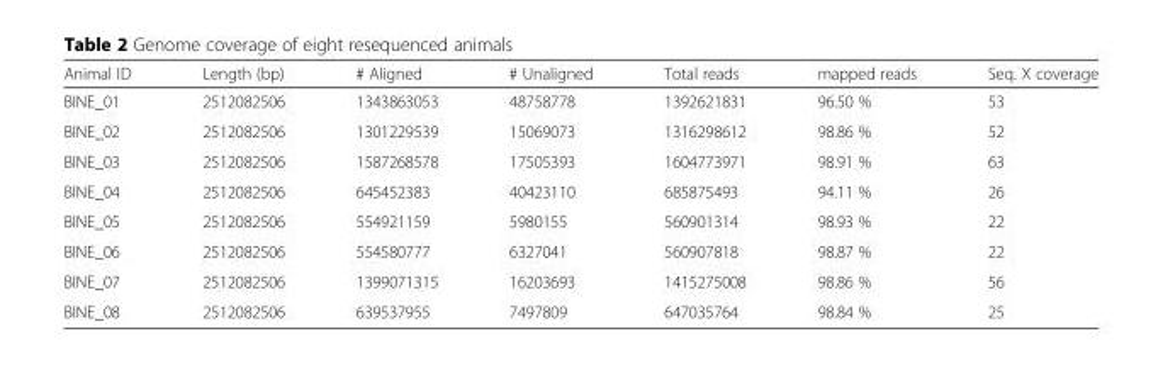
<table><thead><tr><td>Animal ID</td><td>Length (bp)</td><td># Aligned</td><td># Unaligned</td><td>Total reads</td><td>mapped reads</td><td>Seq. X coverage</td></tr></thead><tbody><tr><td>BINE_01</td><td>2512082506</td><td>1343863053</td><td>48758778</td><td>1392621831</td><td>96.50 %</td><td>53</td></tr><tr><td>BINE_02</td><td>2512082506</td><td>1301229539</td><td>15069073</td><td>1316298612</td><td>98.86 %</td><td>52</td></tr><tr><td>BINE_03</td><td>2512082506</td><td>1587268578</td><td>17505393</td><td>1604773971</td><td>98.91 %</td><td>63</td></tr><tr><td>BINE_04</td><td>2512082506</td><td>645452383</td><td>40423110</td><td>685875493</td><td>94.11 %</td><td>26</td></tr><tr><td>BINE_05</td><td>2512082506</td><td>554921159</td><td>5980155</td><td>560901314</td><td>98.93 %</td><td>22</td></tr><tr><td>BINE_06</td><td>2512082506</td><td>554580777</td><td>6327041</td><td>560907818</td><td>98.87 %</td><td>22</td></tr><tr><td>BINE_07</td><td>2512082506</td><td>1399071315</td><td>16203693</td><td>1415275008</td><td>98.86 %</td><td>56</td></tr><tr><td>BINE_08</td><td>2512082506</td><td>639537955</td><td>7497809</td><td>647035764</td><td>98.84 %</td><td>25</td></tr></tbody></table>